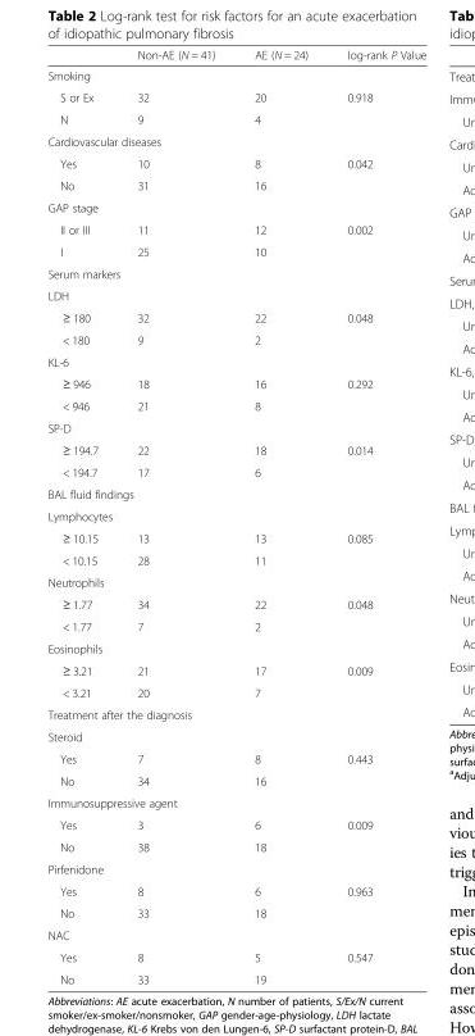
<table><thead><tr><td></td><td>Non-AE (N = 41)</td><td>AE (N = 24)</td><td>log-rank P Value</td></tr></thead><tbody><tr><td colspan="4">Smoking</td></tr><tr><td>S or Ex</td><td>32</td><td>20</td><td>0.918</td></tr><tr><td>N</td><td>9</td><td>4</td><td></td></tr><tr><td colspan="4">Cardiovascular diseases</td></tr><tr><td>Yes</td><td>10</td><td>8</td><td>0.042</td></tr><tr><td>No</td><td>31</td><td>16</td><td></td></tr><tr><td colspan="4">GAP stage</td></tr><tr><td>II or III</td><td>11</td><td>12</td><td>0.002</td></tr><tr><td>I</td><td>25</td><td>10</td><td></td></tr><tr><td colspan="4">Serum markers</td></tr><tr><td colspan="4">LDH</td></tr><tr><td>≥ 180</td><td>32</td><td>22</td><td>0.048</td></tr><tr><td>&lt; 180</td><td>9</td><td>2</td><td></td></tr><tr><td colspan="4">KL-6</td></tr><tr><td>≥ 946</td><td>18</td><td>16</td><td>0.292</td></tr><tr><td>&lt; 946</td><td>21</td><td>8</td><td></td></tr><tr><td colspan="4">SP-D</td></tr><tr><td>≥ 194.7</td><td>22</td><td>18</td><td>0.014</td></tr><tr><td>&lt; 194.7</td><td>17</td><td>6</td><td></td></tr><tr><td colspan="4">BAL fluid findings</td></tr><tr><td colspan="4">Lymphocytes</td></tr><tr><td>≥ 10.15</td><td>13</td><td>13</td><td>0.085</td></tr><tr><td>&lt; 10.15</td><td>28</td><td>11</td><td></td></tr><tr><td colspan="4">Neutrophils</td></tr><tr><td>≥ 1.77</td><td>34</td><td>22</td><td>0.048</td></tr><tr><td>&lt; 1.77</td><td>7</td><td>2</td><td></td></tr><tr><td colspan="4">Eosinophils</td></tr><tr><td>≥ 3.21</td><td>21</td><td>17</td><td>0.009</td></tr><tr><td>&lt; 3.21</td><td>20</td><td>7</td><td></td></tr><tr><td colspan="4">Treatment after the diagnosis</td></tr><tr><td colspan="4">Steroid</td></tr><tr><td>Yes</td><td>7</td><td>8</td><td>0.443</td></tr><tr><td>No</td><td>34</td><td>16</td><td></td></tr><tr><td colspan="4">Immunosuppressive agent</td></tr><tr><td>Yes</td><td>3</td><td>6</td><td>0.009</td></tr><tr><td>No</td><td>38</td><td>18</td><td></td></tr><tr><td colspan="4">Pirfenidone</td></tr><tr><td>Yes</td><td>8</td><td>6</td><td>0.963</td></tr><tr><td>No</td><td>33</td><td>18</td><td></td></tr><tr><td colspan="4">NAC</td></tr><tr><td>Yes</td><td>8</td><td>5</td><td>0.547</td></tr><tr><td>No</td><td>33</td><td>19</td><td></td></tr></tbody></table>